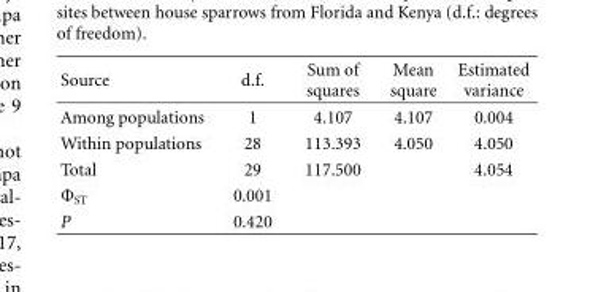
<table><thead><tr><td>Source</td><td>d.f.</td><td>Sum of squares</td><td>Mean square</td><td>Estimated variance</td></tr></thead><tbody><tr><td>Among populations</td><td>1</td><td>4.107</td><td>4.107</td><td>0.004</td></tr><tr><td>Within populations</td><td>28</td><td>113.393</td><td>4.050</td><td>4.050</td></tr><tr><td>Total</td><td>29</td><td>117.500</td><td></td><td>4.054</td></tr><tr><td>Φ<sub>ST</sub></td><td>0.001</td><td></td><td></td><td></td></tr><tr><td>P</td><td>0.420</td><td></td><td></td><td></td></tr></tbody></table>